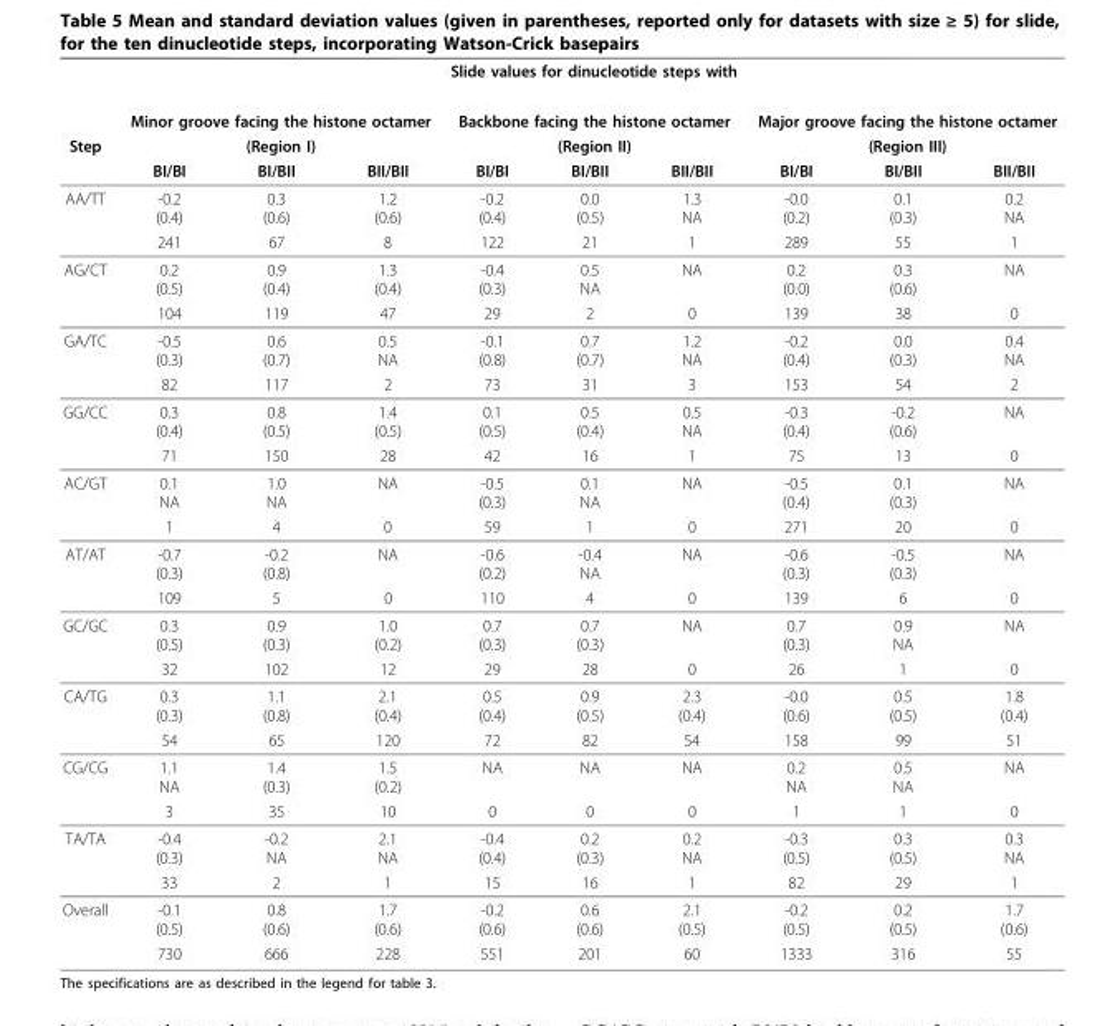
<table><thead><tr><td rowspan="4">Step</td><td colspan="9">Slide values for dinucleotide steps with</td></tr><tr><td rowspan="2" colspan="3">Minor groove facing the histone octamer (Region I)</td><td rowspan="2" colspan="3">Backbone facing the histone octamer (Region II)</td><td rowspan="2" colspan="3">Major groove facing the histone octamer (Region III)</td></tr><tr></tr><tr><td>BI/BI</td><td>BI/BII</td><td>BII/BII</td><td>BI/BI</td><td>BI/BII</td><td>BII/BII</td><td>BI/BI</td><td>BI/BII</td><td>BII/BII</td></tr></thead><tbody><tr><td rowspan="2">AA/TT</td><td>-0.2 (0.4)</td><td>0.3 (0.6)</td><td>1.2 (0.6)</td><td>-0.2 (0.4)</td><td>0.0 (0.5)</td><td>1.3 NA</td><td>-0.0 (0.2)</td><td>0.1 (0.3)</td><td>0.2 NA</td></tr><tr><td>241</td><td>67</td><td>8</td><td>122</td><td>21</td><td>1</td><td>289</td><td>55</td><td>1</td></tr><tr><td rowspan="2">AG/CT</td><td>0.2 (0.5)</td><td>0.9 (0.4)</td><td>1.3 (0.4)</td><td>-0.4 (0.3)</td><td>0.5 NA</td><td>NA</td><td>0.2 (0.0)</td><td>0.3 (0.6)</td><td>NA</td></tr><tr><td>104</td><td>119</td><td>47</td><td>29</td><td>2</td><td>0</td><td>139</td><td>38</td><td>0</td></tr><tr><td rowspan="2">GA/TC</td><td>-0.5 (0.3)</td><td>0.6 (0.7)</td><td>0.5 NA</td><td>-0.1 (0.8)</td><td>0.7 (0.7)</td><td>1.2 NA</td><td>-0.2 (0.4)</td><td>0.0 (0.3)</td><td>0.4 NA</td></tr><tr><td>82</td><td>117</td><td>2</td><td>73</td><td>31</td><td>3</td><td>153</td><td>54</td><td>2</td></tr><tr><td rowspan="2">GG/CC</td><td>0.3 (0.4)</td><td>0.8 (0.5)</td><td>1.4 (0.5)</td><td>0.1 (0.5)</td><td>0.5 (0.4)</td><td>0.5 NA</td><td>-0.3 (0.4)</td><td>-0.2 (0.6)</td><td>NA</td></tr><tr><td>71</td><td>150</td><td>28</td><td>42</td><td>16</td><td>1</td><td>75</td><td>13</td><td>0</td></tr><tr><td rowspan="2">AC/GT</td><td>0.1 NA</td><td>1.0 NA</td><td>NA</td><td>-0.5 (0.3)</td><td>0.1 NA</td><td>NA</td><td>-0.5 (0.4)</td><td>0.1 (0.3)</td><td>NA</td></tr><tr><td>1</td><td>4</td><td>0</td><td>59</td><td>1</td><td>0</td><td>271</td><td>20</td><td>0</td></tr><tr><td rowspan="2">AT/AT</td><td>-0.7 (0.3)</td><td>-0.2 (0.8)</td><td>NA</td><td>-0.6 (0.2)</td><td>-0.4 NA</td><td>NA</td><td>-0.6 (0.3)</td><td>-0.5 (0.3)</td><td>NA</td></tr><tr><td>109</td><td>5</td><td>0</td><td>110</td><td>4</td><td>0</td><td>139</td><td>6</td><td>0</td></tr><tr><td rowspan="2">GC/GC</td><td>0.3 (0.5)</td><td>0.9 (0.3)</td><td>1.0 (0.2)</td><td>0.7 (0.3)</td><td>0.7 (0.3)</td><td>NA</td><td>0.7 (0.3)</td><td>0.9 NA</td><td>NA</td></tr><tr><td>32</td><td>102</td><td>12</td><td>29</td><td>28</td><td>0</td><td>26</td><td>1</td><td>0</td></tr><tr><td rowspan="2">CA/TG</td><td>0.3 (0.3)</td><td>1.1 (0.8)</td><td>2.1 (0.4)</td><td>0.5 (0.4)</td><td>0.9 (0.5)</td><td>2.3 (0.4)</td><td>-0.0 (0.6)</td><td>0.5 (0.5)</td><td>1.8 (0.4)</td></tr><tr><td>54</td><td>65</td><td>120</td><td>72</td><td>82</td><td>54</td><td>158</td><td>99</td><td>51</td></tr><tr><td rowspan="2">CG/CG</td><td>1.1 NA</td><td>1.4 (0.3)</td><td>1.5 (0.2)</td><td>NA</td><td>NA</td><td>NA</td><td>0.2 NA</td><td>0.5 NA</td><td>NA</td></tr><tr><td>3</td><td>35</td><td>10</td><td>0</td><td>0</td><td>0</td><td>1</td><td>1</td><td>0</td></tr><tr><td rowspan="2">TA/TA</td><td>-0.4 (0.3)</td><td>-0.2 NA</td><td>2.1 NA</td><td>-0.4 (0.4)</td><td>0.2 (0.3)</td><td>0.2 NA</td><td>-0.3 (0.5)</td><td>0.3 (0.5)</td><td>0.3 NA</td></tr><tr><td>33</td><td>2</td><td>1</td><td>15</td><td>16</td><td>1</td><td>82</td><td>29</td><td>1</td></tr><tr><td rowspan="2">Overall</td><td>-0.1 (0.5)</td><td>0.8 (0.6)</td><td>1.7 (0.6)</td><td>-0.2 (0.6)</td><td>0.6 (0.6)</td><td>2.1 (0.5)</td><td>-0.2 (0.5)</td><td>0.2 (0.5)</td><td>1.7 (0.6)</td></tr><tr><td>730</td><td>666</td><td>228</td><td>551</td><td>201</td><td>60</td><td>1333</td><td>316</td><td>55</td></tr></tbody></table>